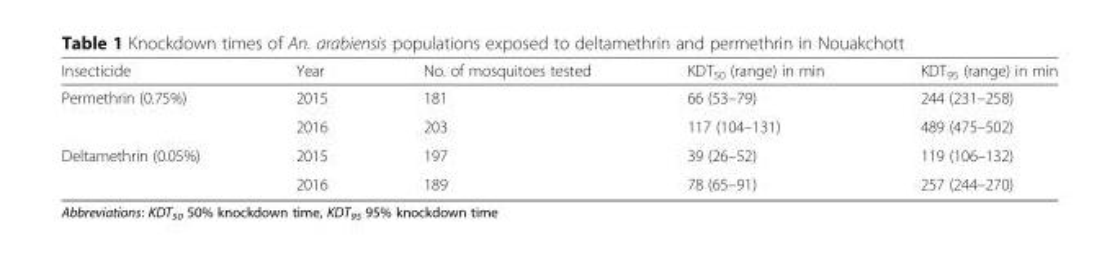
<table><thead><tr><td>Insecticide</td><td>Year</td><td>No. of mosquitoes tested</td><td>KDT<sub>50</sub> (range) in min</td><td>KDT<sub>95</sub> (range) in min</td></tr></thead><tbody><tr><td rowspan="2">Permethrin (0.75%)</td><td>2015</td><td>181</td><td>66 (53–79)</td><td>244 (231–258)</td></tr><tr><td>2016</td><td>203</td><td>117 (104–131)</td><td>489 (475–502)</td></tr><tr><td rowspan="2">Deltamethrin (0.05%)</td><td>2015</td><td>197</td><td>39 (26–52)</td><td>119 (106–132)</td></tr><tr><td>2016</td><td>189</td><td>78 (65–91)</td><td>257 (244–270)</td></tr></tbody></table>